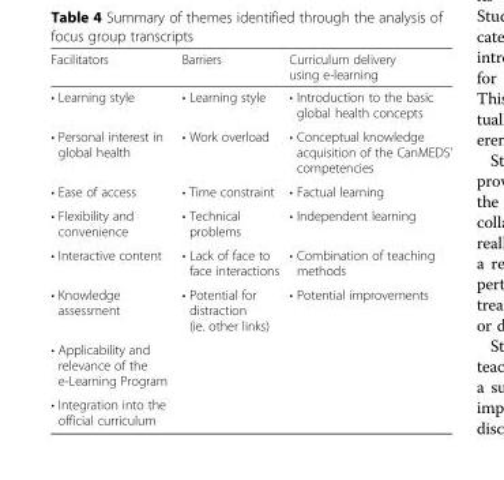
<table><thead><tr><td>Facilitators</td><td>Barriers</td><td>Curriculum delivery using e-learning</td></tr></thead><tbody><tr><td>• Learning style</td><td>• Learning style</td><td>• Introduction to the basic global health concepts</td></tr><tr><td>• Personal interest in global health</td><td>• Work overload</td><td>• Conceptual knowledge acquisition of the CanMEDS’ competencies</td></tr><tr><td>• Ease of access</td><td>• Time constraint</td><td>• Factual learning</td></tr><tr><td>• Flexibility and convenience</td><td>• Technical problems</td><td>• Independent learning</td></tr><tr><td>• Interactive content</td><td>• Lack of face to face interactions</td><td>• Combination of teaching methods</td></tr><tr><td>• Knowledge assessment</td><td>• Potential for distraction (ie. other links)</td><td>• Potential improvements</td></tr><tr><td colspan="3">• Applicability and relevance of the e-Learning Program</td></tr><tr><td>• Integration into the official curriculum</td><td></td><td></td></tr></tbody></table>